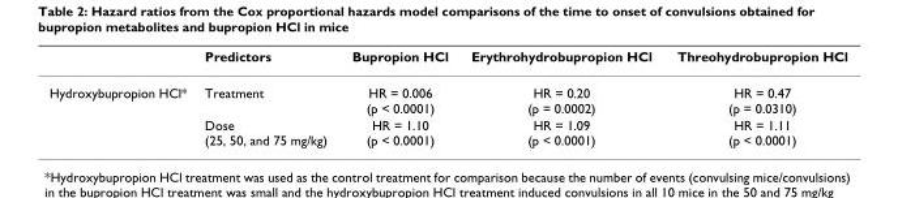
<table><thead><tr><td></td><td>Predictors</td><td>Bupropion HCl</td><td>Erythrohydrobupropion HCl</td><td>Threohydrobupropion HCl</td></tr></thead><tbody><tr><td rowspan="2">Hydroxybupropion HCl*</td><td>Treatment</td><td>HR = 0.006 (p &lt; 0.0001)</td><td>HR = 0.20 (p = 0.0002)</td><td>HR = 0.47 (p = 0.0310)</td></tr><tr><td>Dose (25, 50, and 75 mg/kg)</td><td>HR = 1.10 (p &lt; 0.0001)</td><td>HR = 1.09 (p &lt; 0.0001)</td><td>HR = 1.11 (p &lt; 0.0001)</td></tr></tbody></table>